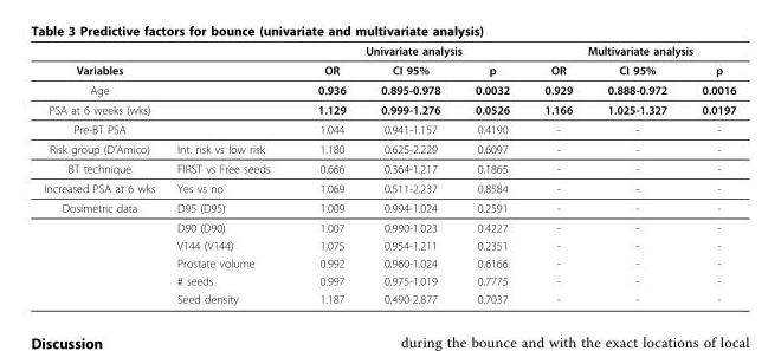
<table><thead><tr><td rowspan="2">Variables</td><td rowspan="2"></td><td colspan="3">Univariate analysis</td><td colspan="3">Multivariate analysis</td></tr><tr><td>OR</td><td>CI 95%</td><td>p</td><td>OR</td><td>CI 95%</td><td>p</td></tr></thead><tbody><tr><td>Age</td><td></td><td>0.936</td><td>0.895-0.978</td><td>0.0032</td><td>0.929</td><td>0.888-0.972</td><td>0.0016</td></tr><tr><td>PSA at 6 weeks (wks)</td><td></td><td>1.129</td><td>0.999-1.276</td><td>0.0526</td><td>1.166</td><td>1.025-1.327</td><td>0.0197</td></tr><tr><td>Pre-BT PSA</td><td></td><td>1.044</td><td>0.941-1.157</td><td>0.4190</td><td>-</td><td>-</td><td>-</td></tr><tr><td>Risk group (D’Amico)</td><td>Int. risk vs low risk</td><td>1.180</td><td>0.625-2.229</td><td>0.6097</td><td>-</td><td>-</td><td>-</td></tr><tr><td>BT technique</td><td>FIRST vs Free seeds</td><td>0.666</td><td>0.364-1.217</td><td>0.1865</td><td>-</td><td>-</td><td>-</td></tr><tr><td>Increased PSA at 6 wks</td><td>Yes vs no</td><td>1.069</td><td>0.511-2.237</td><td>0.8584</td><td>-</td><td>-</td><td>-</td></tr><tr><td rowspan="6">Dosimetric data</td><td>D95 (D95)</td><td>1.009</td><td>0.994-1.024</td><td>0.2591</td><td>-</td><td>-</td><td>-</td></tr><tr><td>D90 (D90)</td><td>1.007</td><td>0.990-1.023</td><td>0.4227</td><td>-</td><td>-</td><td>-</td></tr><tr><td>V144 (V144)</td><td>1.075</td><td>0.954-1.211</td><td>0.2351</td><td>-</td><td>-</td><td>-</td></tr><tr><td>Prostate volume</td><td>0.992</td><td>0.960-1.024</td><td>0.6166</td><td>-</td><td>-</td><td>-</td></tr><tr><td># seeds</td><td>0.997</td><td>0.975-1.019</td><td>0.7775</td><td>-</td><td>-</td><td>-</td></tr><tr><td>Seed density</td><td>1.187</td><td>0.490-2.877</td><td>0.7037</td><td>-</td><td>-</td><td>-</td></tr></tbody></table>